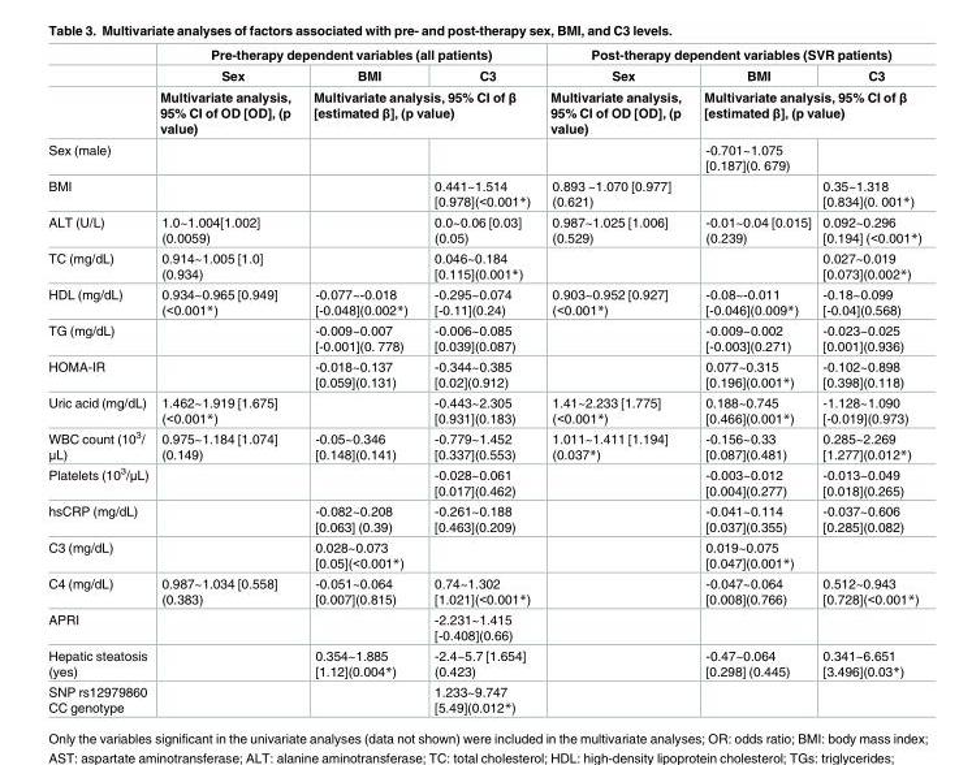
<table><thead><tr><td rowspan="3"></td><td colspan="3">Pre-therapy dependent variables (all patients)</td><td colspan="3">Post-therapy dependent variables (SVR patients)</td></tr><tr><td rowspan="2">Sex Multivariate analysis, 95% CI of OD [OD], (p value)</td><td>BMI</td><td>C3</td><td rowspan="2">Sex Multivariate analysis, 95% CI of OD [OD], (p value)</td><td>BMI</td><td>C3</td></tr><tr><td colspan="2">Multivariate analysis, 95% CI of β [estimated β], (p value)</td><td colspan="2">Multivariate analysis, 95% CI of β [estimated β], (p value)</td></tr></thead><tbody><tr><td>Sex (male)</td><td></td><td></td><td></td><td></td><td>-0.701~1.075 [0.187](0. 679)</td><td></td></tr><tr><td>BMI</td><td></td><td></td><td>0.441~1.514 [0.978](&lt;0.001*)</td><td>0.893 ~1.070 [0.977] (0.621)</td><td></td><td>0.35~1.318 [0.834](0. 001*)</td></tr><tr><td>ALT (U/L)</td><td>1.0~1.004[1.002] (0.0059)</td><td></td><td>0.0~0.06 [0.03] (0.05)</td><td>0.987~1.025 [1.006] (0.529)</td><td>-0.01~0.04 [0.015] (0.239)</td><td>0.092~0.296 [0.194] (&lt;0.001*)</td></tr><tr><td>TC (mg/dL)</td><td>0.914~1.005 [1.0] (0.934)</td><td></td><td>0.046~0.184 [0.115](0.001*)</td><td></td><td></td><td>0.027~0.019 [0.073](0.002*)</td></tr><tr><td>HDL (mg/dL)</td><td>0.934~0.965 [0.949] (&lt;0.001*)</td><td>-0.077~-0.018 [-0.048](0.002*)</td><td>-0.295~0.074 [-0.11](0.24)</td><td>0.903~0.952 [0.927] (&lt;0.001*)</td><td>-0.08~-0.011 [-0.046](0.009*)</td><td>-0.18~0.099 [-0.04](0.568)</td></tr><tr><td>TG (mg/dL)</td><td></td><td>-0.009~0.007 [-0.001](0. 778)</td><td>-0.006~0.085 [0.039](0.087)</td><td></td><td>-0.009~0.002 [-0.003](0.271)</td><td>-0.023~0.025 [0.001](0.936)</td></tr><tr><td>HOMA-IR</td><td></td><td>-0.018~0.137 [0.059](0.131)</td><td>-0.344~0.385 [0.02](0.912)</td><td></td><td>0.077~0.315 [0.196](0.001*)</td><td>-0.102~0.898 [0.398](0.118)</td></tr><tr><td>Uric acid (mg/dL)</td><td>1.462~1.919 [1.675] (&lt;0.001*)</td><td></td><td>-0.443~2.305 [0.931](0.183)</td><td>1.41~2.233 [1.775] (&lt;0.001*)</td><td>0.188~0.745 [0.466](0.001*)</td><td>-1.128~1.090 [-0.019](0.973)</td></tr><tr><td>WBC count (10<sup>3</sup>/ μL)</td><td>0.975~1.184 [1.074] (0.149)</td><td>-0.05~0.346 [0.148](0.141)</td><td>-0.779~1.452 [0.337](0.553)</td><td>1.011~1.411 [1.194] (0.037*)</td><td>-0.156~0.33 [0.087](0.481)</td><td>0.285~2.269 [1.277](0.012*)</td></tr><tr><td>Platelets (10<sup>3</sup>/μL)</td><td></td><td></td><td>-0.028~0.061 [0.017](0.462)</td><td></td><td>-0.003~0.012 [0.004](0.277)</td><td>-0.013~0.049 [0.018](0.265)</td></tr><tr><td>hsCRP (mg/dL)</td><td></td><td>-0.082~0.208 [0.063] (0.39)</td><td>-0.261~0.188 [0.463](0.209)</td><td></td><td>-0.041~0.114 [0.037](0.355)</td><td>-0.037~0.606 [0.285](0.082)</td></tr><tr><td>C3 (mg/dL)</td><td></td><td>0.028~0.073 [0.05](&lt;0.001*)</td><td></td><td></td><td>0.019~0.075 [0.047](0.001*)</td><td></td></tr><tr><td>C4 (mg/dL)</td><td>0.987~1.034 [0.558] (0.383)</td><td>-0.051~0.064 [0.007](0.815)</td><td>0.74~1.302 [1.021](&lt;0.001*)</td><td></td><td>-0.047~0.064 [0.008](0.766)</td><td>0.512~0.943 [0.728](&lt;0.001*)</td></tr><tr><td>APRI</td><td></td><td></td><td>-2.231~1.415 [-0.408](0.66)</td><td></td><td></td><td></td></tr><tr><td>Hepatic steatosis (yes)</td><td></td><td>0.354~1.885 [1.12](0.004*)</td><td>-2.4~5.7 [1.654] (0.423)</td><td></td><td>-0.47~0.064 [0.298] (0.445)</td><td>0.341~6.651 [3.496](0.03*)</td></tr><tr><td>SNP rs12979860 CC genotype</td><td></td><td></td><td>1.233~9.747 [5.49](0.012*)</td><td></td><td></td><td></td></tr></tbody></table>